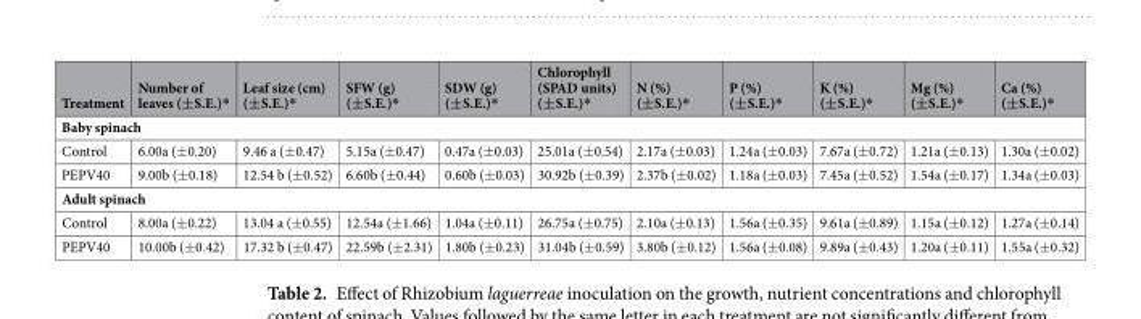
<table><thead><tr><td>Treatment</td><td>Number of leaves (±S.E.)*</td><td>Leaf size (cm) (±S.E.)*</td><td>SFW (g) (±S.E.)*</td><td>SDW (g) (±S.E.)*</td><td>Chlorophyll (SPAD units) (±S.E.)*</td><td>N (%) (±S.E.)*</td><td>P (%) (±S.E.)*</td><td>K (%) (±S.E.)*</td><td>Mg (%) (±S.E.)*</td><td>Ca (%) (±S.E.)*</td></tr></thead><tbody><tr><td colspan="11">Baby spinach</td></tr><tr><td>Control</td><td>6.00a (±0.20)</td><td>9.46 a (±0.47)</td><td>5.15a (±0.47)</td><td>0.47a (±0.03)</td><td>25.01a (±0.54)</td><td>2.17a (±0.03)</td><td>1.24a (±0.03)</td><td>7.67a (±0.72)</td><td>1.21a (±0.13)</td><td>1.30a (±0.02)</td></tr><tr><td>PEPV40</td><td>9.00b (±0.18)</td><td>12.54 b (±0.52)</td><td>6.60b (±0.44)</td><td>0.60b (±0.03)</td><td>30.92b (±0.39)</td><td>2.37b (±0.02)</td><td>1.18a (±0.03)</td><td>7.45a (±0.52)</td><td>1.54a (±0.17)</td><td>1.34a (±0.03)</td></tr><tr><td colspan="11">Adult spinach</td></tr><tr><td>Control</td><td>8.00a (±0.22)</td><td>13.04 a (±0.55)</td><td>12.54a (±1.66)</td><td>1.04a (±0.11)</td><td>26.75a (±0.75)</td><td>2.10a (±0.13)</td><td>1.56a (±0.35)</td><td>9.61a (±0.89)</td><td>1.15a (±0.12)</td><td>1.27a (±0.14)</td></tr><tr><td>PEPV40</td><td>10.00b (±0.42)</td><td>17.32 b (±0.47)</td><td>22.59b (±2.31)</td><td>1.80b (±0.23)</td><td>31.04b (±0.59)</td><td>3.80b (±0.12)</td><td>1.56a (±0.08)</td><td>9.89a (±0.43)</td><td>1.20a (±0.11)</td><td>1.55a (±0.32)</td></tr></tbody></table>